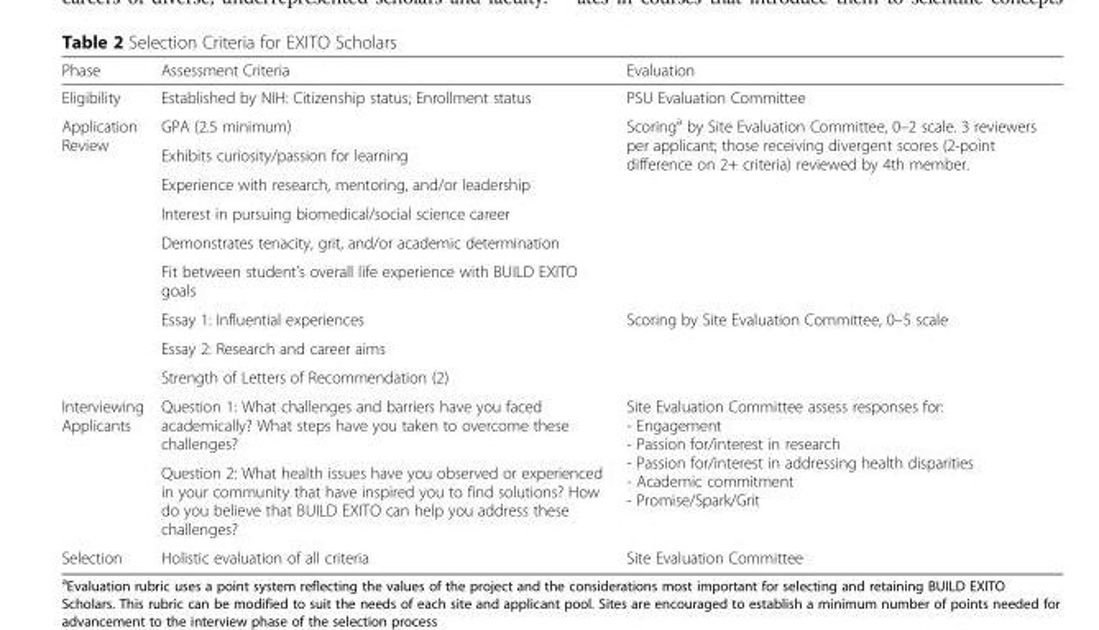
<table><thead><tr><td>Phase</td><td>Assessment Criteria</td><td>Evaluation</td></tr></thead><tbody><tr><td>Eligibility</td><td>Established by NIH: Citizenship status; Enrollment status</td><td>PSU Evaluation Committee</td></tr><tr><td rowspan="9">Application Review</td><td>GPA (2.5 minimum)</td><td rowspan="6">Scoring<sup>a</sup> by Site Evaluation Committee, 0–2 scale. 3 reviewers per applicant; those receiving divergent scores (2-point difference on 2+ criteria) reviewed by 4th member.</td></tr><tr><td>Exhibits curiosity/passion for learning</td></tr><tr><td>Experience with research, mentoring, and/or leadership</td></tr><tr><td>Interest in pursuing biomedical/social science career</td></tr><tr><td>Demonstrates tenacity, grit, and/or academic determination</td></tr><tr><td>Fit between student’s overall life experience with BUILD EXITO goals</td></tr><tr><td>Essay 1: Influential experiences</td><td rowspan="3">Scoring by Site Evaluation Committee, 0–5 scale</td></tr><tr><td>Essay 2: Research and career aims</td></tr><tr><td>Strength of Letters of Recommendation (2)</td></tr><tr><td rowspan="2">Interviewing Applicants</td><td>Question 1: What challenges and barriers have you faced academically? What steps have you taken to overcome these challenges?</td><td rowspan="2">Site Evaluation Committee assess responses for: - Engagement - Passion for/interest in research - Passion for/interest in addressing health disparities - Academic commitment - Promise/Spark/Grit</td></tr><tr><td>Question 2: What health issues have you observed or experienced in your community that have inspired you to find solutions? How do you believe that BUILD EXITO can help you address these challenges?</td></tr><tr><td>Selection</td><td>Holistic evaluation of all criteria</td><td>Site Evaluation Committee</td></tr></tbody></table>